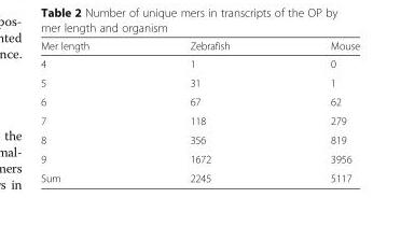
<table><thead><tr><td>Mer length</td><td>Zebrafish</td><td>Mouse</td></tr></thead><tbody><tr><td>4</td><td>1</td><td>0</td></tr><tr><td>5</td><td>31</td><td>1</td></tr><tr><td>6</td><td>67</td><td>62</td></tr><tr><td>7</td><td>118</td><td>279</td></tr><tr><td>8</td><td>356</td><td>819</td></tr><tr><td>9</td><td>1672</td><td>3956</td></tr><tr><td>Sum</td><td>2245</td><td>5117</td></tr></tbody></table>